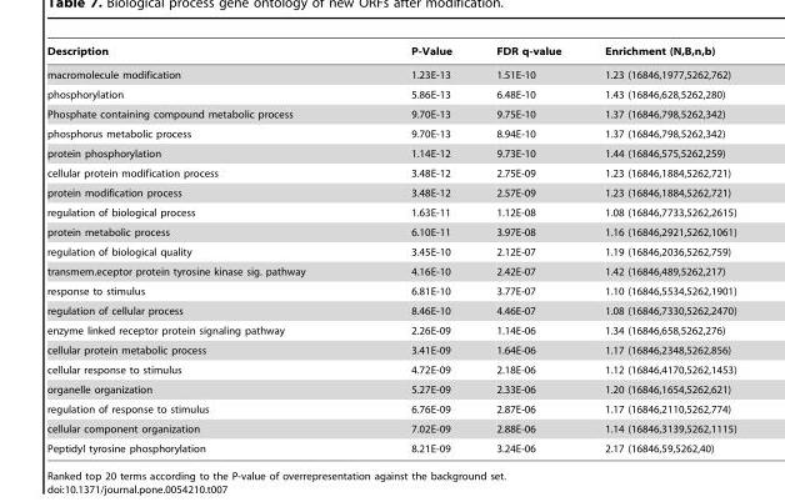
<table><thead><tr><td>Description</td><td>P-Value</td><td>FDR q-value</td><td>Enrichment (N,B,n,b)</td></tr></thead><tbody><tr><td>macromolecule modification</td><td>1.23E-13</td><td>1.51E-10</td><td>1.23 (16846,1977,5262,762)</td></tr><tr><td>phosphorylation</td><td>5.86E-13</td><td>6.48E-10</td><td>1.43 (16846,628,5262,280)</td></tr><tr><td>Phosphate containing compound metabolic process</td><td>9.70E-13</td><td>9.75E-10</td><td>1.37 (16846,798,5262,342)</td></tr><tr><td>phosphorus metabolic process</td><td>9.70E-13</td><td>8.94E-10</td><td>1.37 (16846,798,5262,342)</td></tr><tr><td>protein phosphorylation</td><td>1.14E-12</td><td>9.73E-10</td><td>1.44 (16846,575,5262,259)</td></tr><tr><td>cellular protein modification process</td><td>3.48E-12</td><td>2.75E-09</td><td>1.23 (16846,1884,5262,721)</td></tr><tr><td>protein modification process</td><td>3.48E-12</td><td>2.57E-09</td><td>1.23 (16846,1884,5262,721)</td></tr><tr><td>regulation of biological process</td><td>1.63E-11</td><td>1.12E-08</td><td>1.08 (16846,7733,5262,2615)</td></tr><tr><td>protein metabolic process</td><td>6.10E-11</td><td>3.97E-08</td><td>1.16 (16846,2921,5262,1061)</td></tr><tr><td>regulation of biological quality</td><td>3.45E-10</td><td>2.12E-07</td><td>1.19 (16846,2036,5262,759)</td></tr><tr><td>transmem.eceptor protein tyrosine kinase sig. pathway</td><td>4.16E-10</td><td>2.42E-07</td><td>1.42 (16846,489,5262,217)</td></tr><tr><td>response to stimulus</td><td>6.81E-10</td><td>3.77E-07</td><td>1.10 (16846,5534,5262,1901)</td></tr><tr><td>regulation of cellular process</td><td>8.46E-10</td><td>4.46E-07</td><td>1.08 (16846,7330,5262,2470)</td></tr><tr><td>enzyme linked receptor protein signaling pathway</td><td>2.26E-09</td><td>1.14E-06</td><td>1.34 (16846,658,5262,276)</td></tr><tr><td>cellular protein metabolic process</td><td>3.41E-09</td><td>1.64E-06</td><td>1.17 (16846,2348,5262,856)</td></tr><tr><td>cellular response to stimulus</td><td>4.72E-09</td><td>2.18E-06</td><td>1.12 (16846,4170,5262,1453)</td></tr><tr><td>organelle organization</td><td>5.27E-09</td><td>2.33E-06</td><td>1.20 (16846,1654,5262,621)</td></tr><tr><td>regulation of response to stimulus</td><td>6.76E-09</td><td>2.87E-06</td><td>1.17 (16846,2110,5262,774)</td></tr><tr><td>cellular component organization</td><td>7.02E-09</td><td>2.88E-06</td><td>1.14 (16846,3139,5262,1115)</td></tr><tr><td>Peptidyl tyrosine phosphorylation</td><td>8.21E-09</td><td>3.24E-06</td><td>2.17 (16846,59,5262,40)</td></tr></tbody></table>